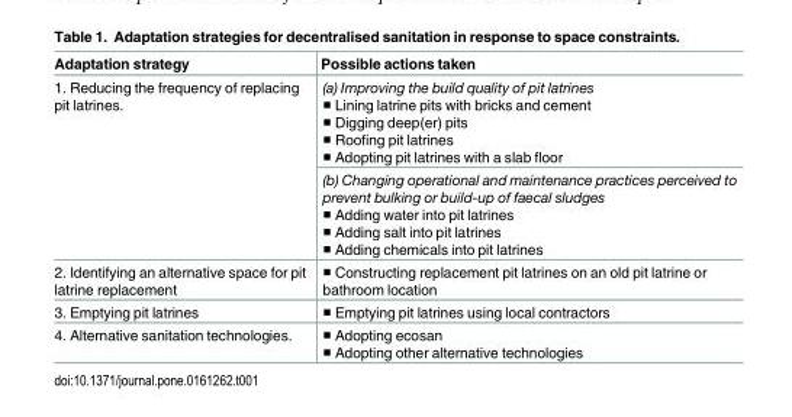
<table><thead><tr><td>Adaptation strategy</td><td>Possible actions taken</td></tr></thead><tbody><tr><td rowspan="2">1. Reducing the frequency of replacing pit latrines.</td><td>(a) Improving the build quality of pit latrines ■ Lining latrine pits with bricks and cement ■ Digging deep(er) pits ■ Roofing pit latrines ■ Adopting pit latrines with a slab floor</td></tr><tr><td>(b) Changing operational and maintenance practices perceived to prevent bulking or build-up of faecal sludges ■ Adding water into pit latrines ■ Adding salt into pit latrines ■ Adding chemicals into pit latrines</td></tr><tr><td>2. Identifying an alternative space for pit latrine replacement</td><td>■ Constructing replacement pit latrines on an old pit latrine or bathroom location</td></tr><tr><td>3. Emptying pit latrines</td><td>■ Emptying pit latrines using local contractors</td></tr><tr><td>4. Alternative sanitation technologies.</td><td>■ Adopting ecosan ■ Adopting other alternative technologies</td></tr></tbody></table>